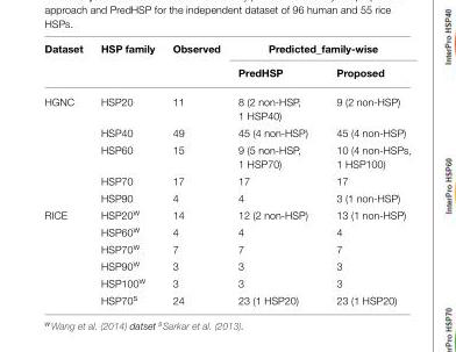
<table><thead><tr><td rowspan="2">Dataset</td><td rowspan="2">HSP family</td><td rowspan="2">Observed</td><td colspan="2">Predicted_family-wise</td></tr><tr><td>PredHSP</td><td>Proposed</td></tr></thead><tbody><tr><td rowspan="5">HGNC</td><td>HSP20</td><td>11</td><td>8 (2 non-HSP, 1 HSP40)</td><td>9 (2 non-HSP)</td></tr><tr><td>HSP40</td><td>49</td><td>45 (4 non-HSP)</td><td>45 (4 non-HSP)</td></tr><tr><td>HSP60</td><td>15</td><td>9 (5 non-HSP, 1 HSP70)</td><td>10 (4 non-HSPs, 1 HSP100)</td></tr><tr><td>HSP70</td><td>17</td><td>17</td><td>17</td></tr><tr><td>HSP90</td><td>4</td><td>4</td><td>3 (1 non-HSP)</td></tr><tr><td rowspan="6">RICE</td><td>HSP20<sup>w</sup></td><td>14</td><td>12 (2 non-HSP)</td><td>13 (1 non-HSP)</td></tr><tr><td>HSP60<sup>w</sup></td><td>4</td><td>4</td><td>4</td></tr><tr><td>HSP70<sup>w</sup></td><td>7</td><td>7</td><td>7</td></tr><tr><td>HSP90<sup>w</sup></td><td>3</td><td>3</td><td>3</td></tr><tr><td>HSP100<sup>w</sup></td><td>3</td><td>3</td><td>3</td></tr><tr><td>HSP70<sup>s</sup></td><td>24</td><td>23 (1 HSP20)</td><td>23 (1 HSP20)</td></tr></tbody></table>